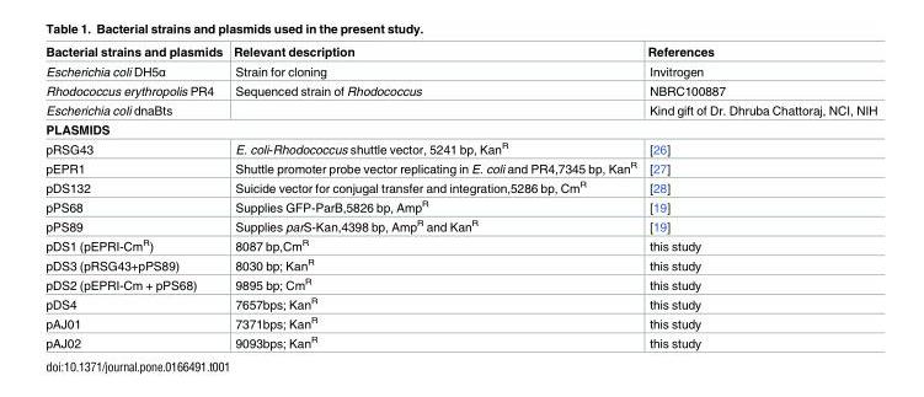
<table><thead><tr><td>Bacterial strains and plasmids</td><td>Relevant description</td><td>References</td></tr></thead><tbody><tr><td>Escherichia coli DH5α</td><td>Strain for cloning</td><td>Invitrogen</td></tr><tr><td>Rhodococcus erythropolis PR4</td><td>Sequenced strain of Rhodococcus</td><td>NBRC100887</td></tr><tr><td>Escherichia coli dnaBts</td><td></td><td>Kind gift of Dr. Dhruba Chattoraj, NCI, NIH</td></tr><tr><td colspan="3">PLASMIDS</td></tr><tr><td>pRSG43</td><td>E. coli-Rhodococcus shuttle vector, 5241 bp, Kan<sup>R</sup></td><td>[26]</td></tr><tr><td>pEPR1</td><td>Shuttle promoter probe vector replicating in E. coli and PR4,7345 bp, Kan<sup>R</sup></td><td>[27]</td></tr><tr><td>pDS132</td><td>Suicide vector for conjugal transfer and integration,5286 bp, Cm<sup>R</sup></td><td>[28]</td></tr><tr><td>pPS68</td><td>Supplies GFP-ParB,5826 bp, Amp<sup>R</sup></td><td>[19]</td></tr><tr><td>pPS89</td><td>Supplies parS-Kan,4398 bp, Amp<sup>R</sup> and Kan<sup>R</sup></td><td>[19]</td></tr><tr><td>pDS1 (pEPRI-Cm<sup>R</sup>)</td><td>8087 bp,Cm<sup>R</sup></td><td>this study</td></tr><tr><td>pDS3 (pRSG43+pPS89)</td><td>8030 bp; Kan<sup>R</sup></td><td>this study</td></tr><tr><td>pDS2 (pEPRI-Cm + pPS68)</td><td>9895 bp; Cm<sup>R</sup></td><td>this study</td></tr><tr><td>pDS4</td><td>7657bps; Kan<sup>R</sup></td><td>this study</td></tr><tr><td>pAJ01</td><td>7371bps; Kan<sup>R</sup></td><td>this study</td></tr><tr><td>pAJ02</td><td>9093bps; Kan<sup>R</sup></td><td>this study</td></tr></tbody></table>